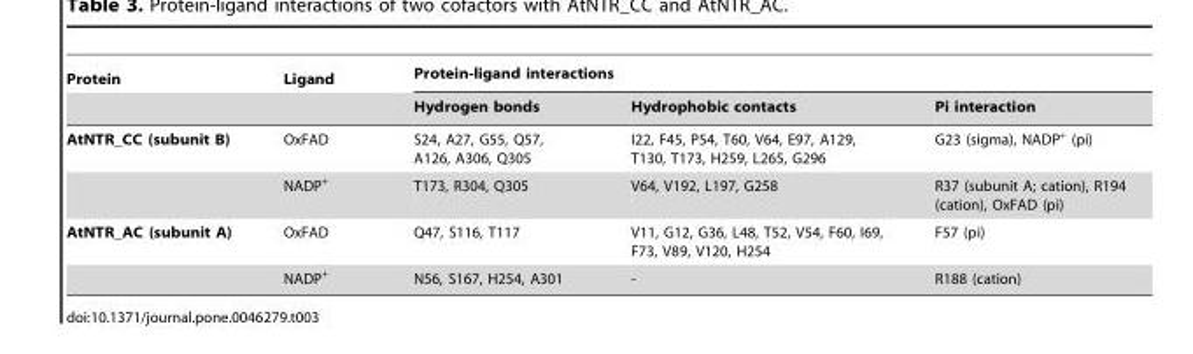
<table><thead><tr><td rowspan="2">Protein</td><td rowspan="2">Ligand</td><td colspan="3">Protein-ligand interactions</td></tr><tr><td>Hydrogen bonds</td><td>Hydrophobic contacts</td><td>Pi interaction</td></tr></thead><tbody><tr><td rowspan="2">AtNTR_CC (subunit B)</td><td>OxFAD</td><td>S24, A27, G55, Q57, A126, A306, Q305</td><td>I22, F45, P54, T60, V64, E97, A129, T130, T173, H259, L265, G296</td><td>G23 (sigma), NADP<sup>+</sup> (pi)</td></tr><tr><td>NADP<sup>+</sup></td><td>T173, R304, Q305</td><td>V64, V192, L197, G258</td><td>R37 (subunit A; cation), R194 (cation), OxFAD (pi)</td></tr><tr><td rowspan="2">AtNTR_AC (subunit A)</td><td>OxFAD</td><td>Q47, S116, T117</td><td>V11, G12, G36, L48, T52, V54, F60, I69, F73, V89, V120, H254</td><td>F57 (pi)</td></tr><tr><td>NADP<sup>+</sup></td><td>N56, S167, H254, A301</td><td>-</td><td>R188 (cation)</td></tr></tbody></table>